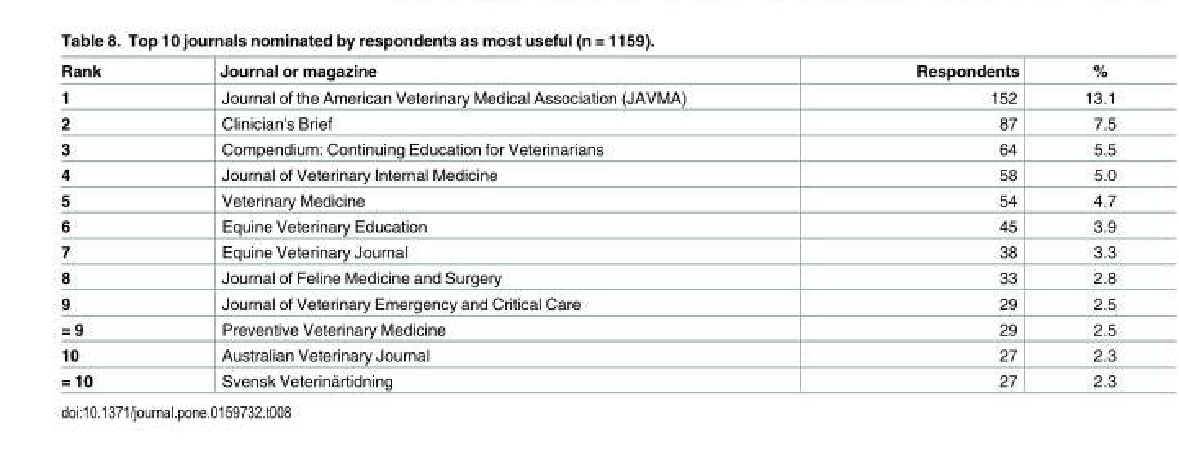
<table><thead><tr><td>Rank</td><td>Journal or magazine</td><td>Respondents</td><td>%</td></tr></thead><tbody><tr><td>1</td><td>Journal of the American Veterinary Medical Association (JAVMA)</td><td>152</td><td>13.1</td></tr><tr><td>2</td><td>Clinician&#x27;s Brief</td><td>87</td><td>7.5</td></tr><tr><td>3</td><td>Compendium: Continuing Education for Veterinarians</td><td>64</td><td>5.5</td></tr><tr><td>4</td><td>Journal of Veterinary Internal Medicine</td><td>58</td><td>5.0</td></tr><tr><td>5</td><td>Veterinary Medicine</td><td>54</td><td>4.7</td></tr><tr><td>6</td><td>Equine Veterinary Education</td><td>45</td><td>3.9</td></tr><tr><td>7</td><td>Equine Veterinary Journal</td><td>38</td><td>3.3</td></tr><tr><td>8</td><td>Journal of Feline Medicine and Surgery</td><td>33</td><td>2.8</td></tr><tr><td>9</td><td>Journal of Veterinary Emergency and Critical Care</td><td>29</td><td>2.5</td></tr><tr><td>= 9</td><td>Preventive Veterinary Medicine</td><td>29</td><td>2.5</td></tr><tr><td>10</td><td>Australian Veterinary Journal</td><td>27</td><td>2.3</td></tr><tr><td>= 10</td><td>Svensk Veterinärtidning</td><td>27</td><td>2.3</td></tr></tbody></table>